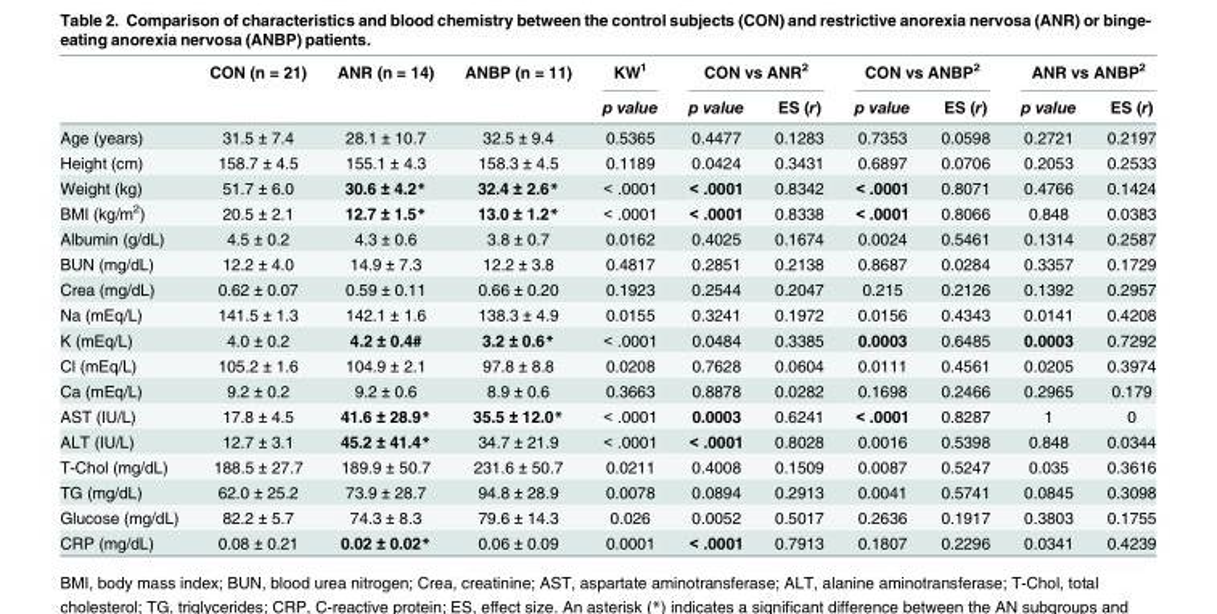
<table><thead><tr><td rowspan="2"></td><td rowspan="2">CON (n = 21)</td><td rowspan="2">ANR (n = 14)</td><td rowspan="2">ANBP (n = 11)</td><td rowspan="2">KW<sup>1</sup> p value</td><td colspan="2">CON vs ANR<sup>2</sup></td><td colspan="2">CON vs ANBP<sup>2</sup></td><td colspan="2">ANR vs ANBP<sup>2</sup></td></tr><tr><td>p value</td><td>ES (r)</td><td>p value</td><td>ES (r)</td><td>p value</td><td>ES (r)</td></tr></thead><tbody><tr><td>Age (years)</td><td>31.5 ± 7.4</td><td>28.1 ± 10.7</td><td>32.5 ± 9.4</td><td>0.5365</td><td>0.4477</td><td>0.1283</td><td>0.7353</td><td>0.0598</td><td>0.2721</td><td>0.2197</td></tr><tr><td>Height (cm)</td><td>158.7 ± 4.5</td><td>155.1 ± 4.3</td><td>158.3 ± 4.5</td><td>0.1189</td><td>0.0424</td><td>0.3431</td><td>0.6897</td><td>0.0706</td><td>0.2053</td><td>0.2533</td></tr><tr><td>Weight (kg)</td><td>51.7 ± 6.0</td><td>30.6 ± 4.2*</td><td>32.4 ± 2.6*</td><td>&lt; .0001</td><td>&lt; .0001</td><td>0.8342</td><td>&lt; .0001</td><td>0.8071</td><td>0.4766</td><td>0.1424</td></tr><tr><td>BMI (kg/m<sup>2</sup>)</td><td>20.5 ± 2.1</td><td>12.7 ± 1.5*</td><td>13.0 ± 1.2*</td><td>&lt; .0001</td><td>&lt; .0001</td><td>0.8338</td><td>&lt; .0001</td><td>0.8066</td><td>0.848</td><td>0.0383</td></tr><tr><td>Albumin (g/dL)</td><td>4.5 ± 0.2</td><td>4.3 ± 0.6</td><td>3.8 ± 0.7</td><td>0.0162</td><td>0.4025</td><td>0.1674</td><td>0.0024</td><td>0.5461</td><td>0.1314</td><td>0.2587</td></tr><tr><td>BUN (mg/dL)</td><td>12.2 ± 4.0</td><td>14.9 ± 7.3</td><td>12.2 ± 3.8</td><td>0.4817</td><td>0.2851</td><td>0.2138</td><td>0.8687</td><td>0.0284</td><td>0.3357</td><td>0.1729</td></tr><tr><td>Crea (mg/dL)</td><td>0.62 ± 0.07</td><td>0.59 ± 0.11</td><td>0.66 ± 0.20</td><td>0.1923</td><td>0.2544</td><td>0.2047</td><td>0.215</td><td>0.2126</td><td>0.1392</td><td>0.2957</td></tr><tr><td>Na (mEq/L)</td><td>141.5 ± 1.3</td><td>142.1 ± 1.6</td><td>138.3 ± 4.9</td><td>0.0155</td><td>0.3241</td><td>0.1972</td><td>0.0156</td><td>0.4343</td><td>0.0141</td><td>0.4208</td></tr><tr><td>K (mEq/L)</td><td>4.0 ± 0.2</td><td>4.2 ± 0.4#</td><td>3.2 ± 0.6*</td><td>&lt; .0001</td><td>0.0484</td><td>0.3385</td><td>0.0003</td><td>0.6485</td><td>0.0003</td><td>0.7292</td></tr><tr><td>Cl (mEq/L)</td><td>105.2 ± 1.6</td><td>104.9 ± 2.1</td><td>97.8 ± 8.8</td><td>0.0208</td><td>0.7628</td><td>0.0604</td><td>0.0111</td><td>0.4561</td><td>0.0205</td><td>0.3974</td></tr><tr><td>Ca (mEq/L)</td><td>9.2 ± 0.2</td><td>9.2 ± 0.6</td><td>8.9 ± 0.6</td><td>0.3663</td><td>0.8878</td><td>0.0282</td><td>0.1698</td><td>0.2466</td><td>0.2965</td><td>0.179</td></tr><tr><td>AST (IU/L)</td><td>17.8 ± 4.5</td><td>41.6 ± 28.9*</td><td>35.5 ± 12.0*</td><td>&lt; .0001</td><td>0.0003</td><td>0.6241</td><td>&lt; .0001</td><td>0.8287</td><td>1</td><td>0</td></tr><tr><td>ALT (IU/L)</td><td>12.7 ± 3.1</td><td>45.2 ± 41.4*</td><td>34.7 ± 21.9</td><td>&lt; .0001</td><td>&lt; .0001</td><td>0.8028</td><td>0.0016</td><td>0.5398</td><td>0.848</td><td>0.0344</td></tr><tr><td>T-Chol (mg/dL)</td><td>188.5 ± 27.7</td><td>189.9 ± 50.7</td><td>231.6 ± 50.7</td><td>0.0211</td><td>0.4008</td><td>0.1509</td><td>0.0087</td><td>0.5247</td><td>0.035</td><td>0.3616</td></tr><tr><td>TG (mg/dL)</td><td>62.0 ± 25.2</td><td>73.9 ± 28.7</td><td>94.8 ± 28.9</td><td>0.0078</td><td>0.0894</td><td>0.2913</td><td>0.0041</td><td>0.5741</td><td>0.0845</td><td>0.3098</td></tr><tr><td>Glucose (mg/dL)</td><td>82.2 ± 5.7</td><td>74.3 ± 8.3</td><td>79.6 ± 14.3</td><td>0.026</td><td>0.0052</td><td>0.5017</td><td>0.2636</td><td>0.1917</td><td>0.3803</td><td>0.1755</td></tr><tr><td>CRP (mg/dL)</td><td>0.08 ± 0.21</td><td>0.02 ± 0.02*</td><td>0.06 ± 0.09</td><td>0.0001</td><td>&lt; .0001</td><td>0.7913</td><td>0.1807</td><td>0.2296</td><td>0.0341</td><td>0.4239</td></tr></tbody></table>